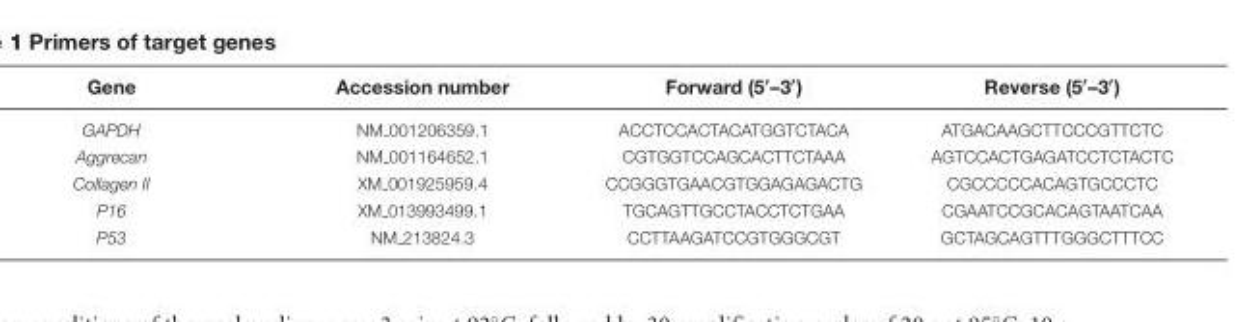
<table><thead><tr><td>Gene</td><td>Accession number</td><td>Forward (5′–3′)</td><td>Reverse (5′–3′)</td></tr></thead><tbody><tr><td>GAPDH</td><td>NM 001206359.1</td><td>ACCTCCACTACATGGTCTACA</td><td>ATGACAAGCTTCCCGTTCTC</td></tr><tr><td>Aggrecan</td><td>NM 001164652.1</td><td>CGTGGTCCAGCACTTCTAAA</td><td>AGTCCACTGAGATCCTCTACTC</td></tr><tr><td>Collagen II</td><td>XM 001925959.4</td><td>CCGGGTGAACGTGGAGAGACTG</td><td>CGCCCCCACAGTGCCCTC</td></tr><tr><td>P16</td><td>XM 013993499.1</td><td>TGCAGTTGCCTACCTCTGAA</td><td>CGAATCCGCACAGTAATCAA</td></tr><tr><td>P53</td><td>NM 213824.3</td><td>CCTTAAGATCCGTGGGCGT</td><td>GCTAGCAGTTTGGGCTTTCC</td></tr></tbody></table>